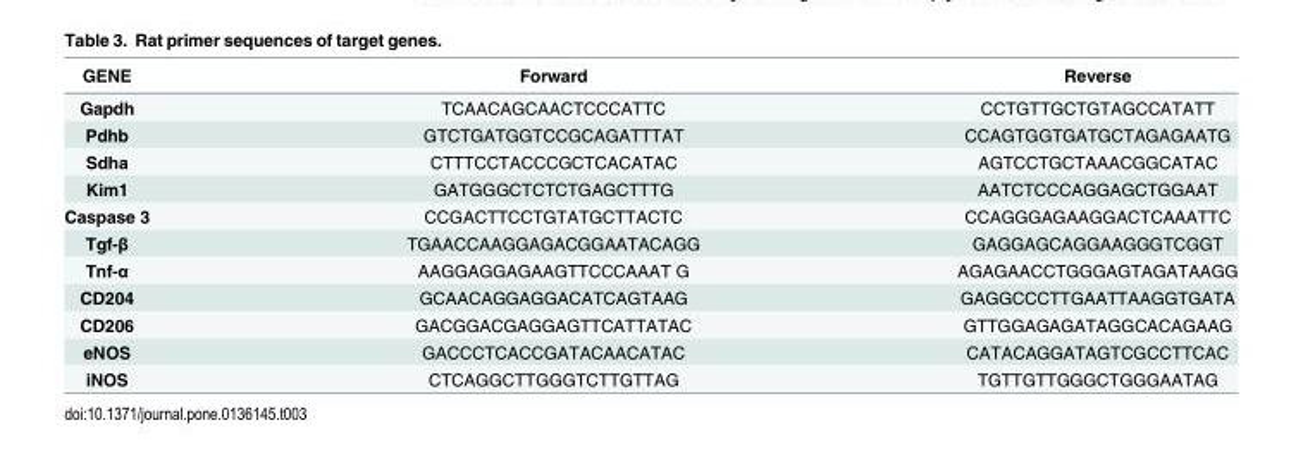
<table><thead><tr><td>GENE</td><td>Forward</td><td>Reverse</td></tr></thead><tbody><tr><td>Gapdh</td><td>TCAACAGCAACTCCCATTC</td><td>CCTGTTGCTGTAGCCATATT</td></tr><tr><td>Pdhb</td><td>GTCTGATGGTCCGCAGATTTAT</td><td>CCAGTGGTGATGCTAGAGAATG</td></tr><tr><td>Sdha</td><td>CTTTCCTACCCGCTCACATAC</td><td>AGTCCTGCTAAACGGCATAC</td></tr><tr><td>Kim1</td><td>GATGGGCTCTCTGAGCTTTG</td><td>AATCTCCCAGGAGCTGGAAT</td></tr><tr><td>Caspase 3</td><td>CCGACTTCCTGTATGCTTACTC</td><td>CCAGGGAGAAGGACTCAAATTC</td></tr><tr><td>Tgf-β</td><td>TGAACCAAGGAGACGGAATACAGG</td><td>GAGGAGCAGGAAGGGTCGGT</td></tr><tr><td>Tnf-α</td><td>AAGGAGGAGAAGTTCCCAAAT G</td><td>AGAGAACCTGGGAGTAGATAAGG</td></tr><tr><td>CD204</td><td>GCAACAGGAGGACATCAGTAAG</td><td>GAGGCCCTTGAATTAAGGTGATA</td></tr><tr><td>CD206</td><td>GACGGACGAGGAGTTCATTATAC</td><td>GTTGGAGAGATAGGCACAGAAG</td></tr><tr><td>eNOS</td><td>GACCCTCACCGATACAACATAC</td><td>CATACAGGATAGTCGCCTTCAC</td></tr><tr><td>iNOS</td><td>CTCAGGCTTGGGTCTTGTTAG</td><td>TGTTGTTGGGCTGGGAATAG</td></tr></tbody></table>